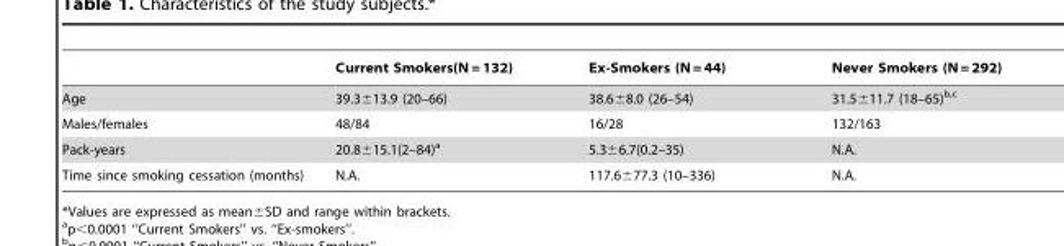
<table><thead><tr><td></td><td>Current Smokers(N = 132)</td><td>Ex-Smokers (N = 44)</td><td>Never Smokers (N = 292)</td></tr></thead><tbody><tr><td>Age</td><td>39.3±13.9 (20–66)</td><td>38.6±8.0 (26–54)</td><td>31.5±11.7 (18–65)<sup>b,</sup>c</td></tr><tr><td>Males/females</td><td>48/84</td><td>16/28</td><td>132/163</td></tr><tr><td>Pack-years</td><td>20.8±15.1(2–84)<sup>a</sup></td><td>5.3±6.7(0.2–35)</td><td>N.A.</td></tr><tr><td>Time since smoking cessation (months)</td><td>N.A.</td><td>117.6±77.3 (10–336)</td><td>N.A.</td></tr></tbody></table>